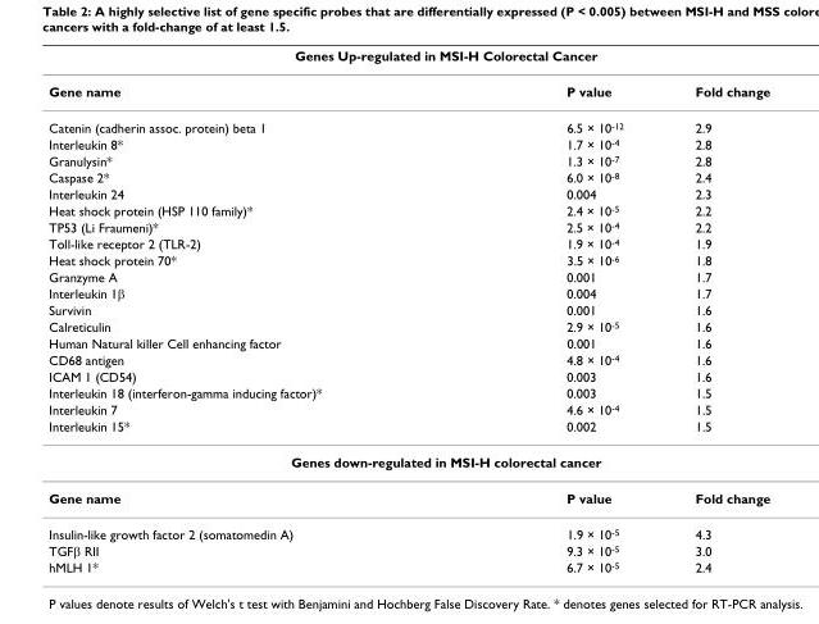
<table><thead><tr><td colspan="3">Genes Up-regulated in MSI-H Colorectal Cancer</td></tr><tr><td>Gene name</td><td>P value</td><td>Fold change</td></tr></thead><tbody><tr><td>Catenin (cadherin assoc. protein) beta 1</td><td>6.5 × 10<sup>-12</sup></td><td>2.9</td></tr><tr><td>Interleukin 8*</td><td>1.7 × 10<sup>-4</sup></td><td>2.8</td></tr><tr><td>Granulysin*</td><td>1.3 × 10<sup>-7</sup></td><td>2.8</td></tr><tr><td>Caspase 2*</td><td>6.0 × 10<sup>-8</sup></td><td>2.4</td></tr><tr><td>Interleukin 24</td><td>0.004</td><td>2.3</td></tr><tr><td>Heat shock protein (HSP 110 family)*</td><td>2.4 × 10<sup>-5</sup></td><td>2.2</td></tr><tr><td>TP53 (Li Fraumeni)*</td><td>2.5 × 10<sup>-4</sup></td><td>2.2</td></tr><tr><td>Toll-like receptor 2 (TLR-2)</td><td>1.9 × 10<sup>-4</sup></td><td>1.9</td></tr><tr><td>Heat shock protein 70*</td><td>3.5 × 10<sup>-6</sup></td><td>1.8</td></tr><tr><td>Granzyme A</td><td>0.001</td><td>1.7</td></tr><tr><td>Interleukin 1β</td><td>0.004</td><td>1.7</td></tr><tr><td>Survivin</td><td>0.001</td><td>1.6</td></tr><tr><td>Calreticulin</td><td>2.9 × 10<sup>-5</sup></td><td>1.6</td></tr><tr><td>Human Natural killer Cell enhancing factor</td><td>0.001</td><td>1.6</td></tr><tr><td>CD68 antigen</td><td>4.8 × 10<sup>-4</sup></td><td>1.6</td></tr><tr><td>ICAM 1 (CD54)</td><td>0.003</td><td>1.6</td></tr><tr><td>Interleukin 18 (interferon-gamma inducing factor)*</td><td>0.003</td><td>1.5</td></tr><tr><td>Interleukin 7</td><td>4.6 × 10<sup>-4</sup></td><td>1.5</td></tr><tr><td>Interleukin 15*</td><td>0.002</td><td>1.5</td></tr><tr><td colspan="3">Genes down-regulated in MSI-H colorectal cancer</td></tr><tr><td>Gene name</td><td>P value</td><td>Fold change</td></tr><tr><td>Insulin-like growth factor 2 (somatomedin A)</td><td>1.9 × 10<sup>-5</sup></td><td>4.3</td></tr><tr><td>TGFβ RII</td><td>9.3 × 10<sup>-5</sup></td><td>3.0</td></tr><tr><td>hMLH 1*</td><td>6.7 × 10<sup>-5</sup></td><td>2.4</td></tr></tbody></table>